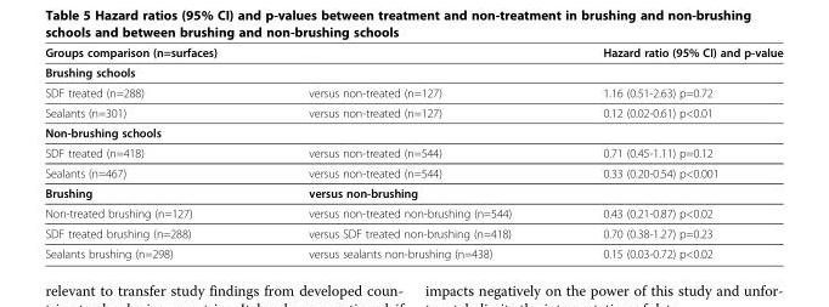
<table><thead><tr><td>Groups comparison (n=surfaces)</td><td></td><td>Hazard ratio (95% CI) and p-value</td></tr></thead><tbody><tr><td colspan="3">Brushing schools</td></tr><tr><td>SDF treated (n=288)</td><td>versus non-treated (n=127)</td><td>1.16 (0.51-2.63) p=0.72</td></tr><tr><td>Sealants (n=301)</td><td>versus non-treated (n=127)</td><td>0.12 (0.02-0.61) p&lt;0.01</td></tr><tr><td colspan="3">Non-brushing schools</td></tr><tr><td>SDF treated (n=418)</td><td>versus non-treated (n=544)</td><td>0.71 (0.45-1.11) p=0.12</td></tr><tr><td>Sealants (n=467)</td><td>versus non-treated (n=544)</td><td>0.33 (0.20-0.54) p&lt;0.001</td></tr><tr><td>Brushing</td><td>versus non-brushing</td><td></td></tr><tr><td>Non-treated brushing (n=127)</td><td>versus non-treated non-brushing (n=544)</td><td>0.43 (0.21-0.87) p&lt;0.02</td></tr><tr><td>SDF treated brushing (n=288)</td><td>versus SDF treated non-brushing (n=418)</td><td>0.70 (0.38-1.27) p=0.23</td></tr><tr><td>Sealants brushing (n=298)</td><td>versus sealants non-brushing (n=438)</td><td>0.15 (0.03-0.72) p&lt;0.02</td></tr></tbody></table>